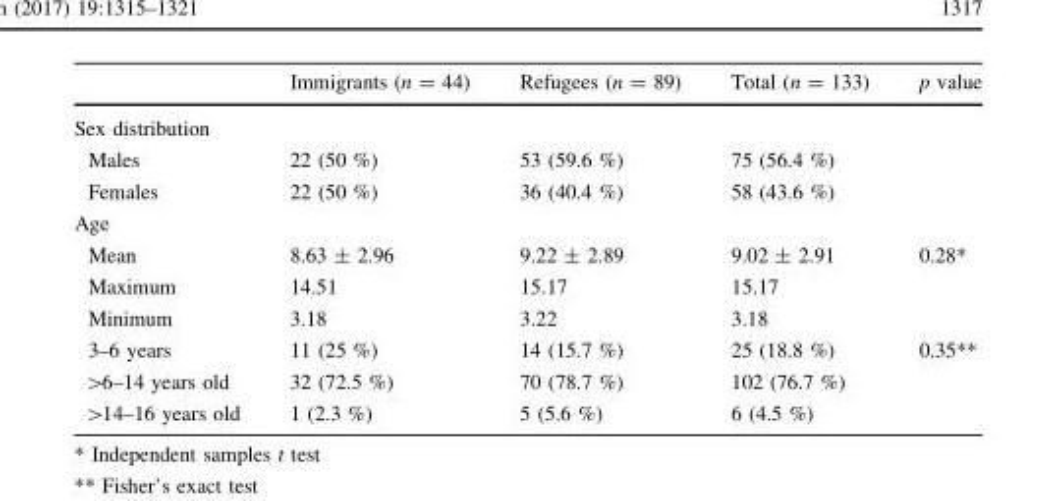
<table><thead><tr><td></td><td>Immigrants (n = 44)</td><td>Refugees (n = 89)</td><td>Total (n = 133)</td><td>p value</td></tr></thead><tbody><tr><td colspan="5">Sex distribution</td></tr><tr><td>Males</td><td>22 (50 %)</td><td>53 (59.6 %)</td><td>75 (56.4 %)</td><td></td></tr><tr><td>Females</td><td>22 (50 %)</td><td>36 (40.4 %)</td><td>58 (43.6 %)</td><td></td></tr><tr><td colspan="5">Age</td></tr><tr><td>Mean</td><td>8.63 ± 2.96</td><td>9.22 ± 2.89</td><td>9.02 ± 2.91</td><td>0.28*</td></tr><tr><td>Maximum</td><td>14.51</td><td>15.17</td><td>15.17</td><td></td></tr><tr><td>Minimum</td><td>3.18</td><td>3.22</td><td>3.18</td><td></td></tr><tr><td>3–6 years</td><td>11 (25 %)</td><td>14 (15.7 %)</td><td>25 (18.8 %)</td><td>0.35**</td></tr><tr><td>&gt;6–14 years old</td><td>32 (72.5 %)</td><td>70 (78.7 %)</td><td>102 (76.7 %)</td><td></td></tr><tr><td>&gt;14–16 years old</td><td>1 (2.3 %)</td><td>5 (5.6 %)</td><td>6 (4.5 %)</td><td></td></tr></tbody></table>